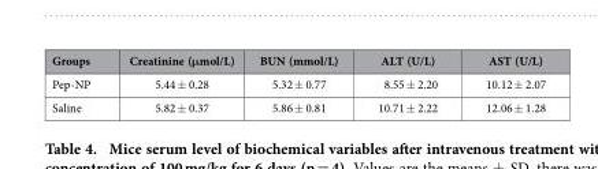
<table><thead><tr><td>Groups</td><td>Creatinine (μmol/L)</td><td>BUN (mmol/L)</td><td>ALT (U/L)</td><td>AST (U/L)</td></tr></thead><tbody><tr><td>Pep-NP</td><td>5.44 ± 0.28</td><td>5.32 ± 0.77</td><td>8.55 ± 2.20</td><td>10.12 ± 2.07</td></tr><tr><td>Saline</td><td>5.82 ± 0.37</td><td>5.86 ± 0.81</td><td>10.71 ± 2.22</td><td>12.06 ± 1.28</td></tr></tbody></table>